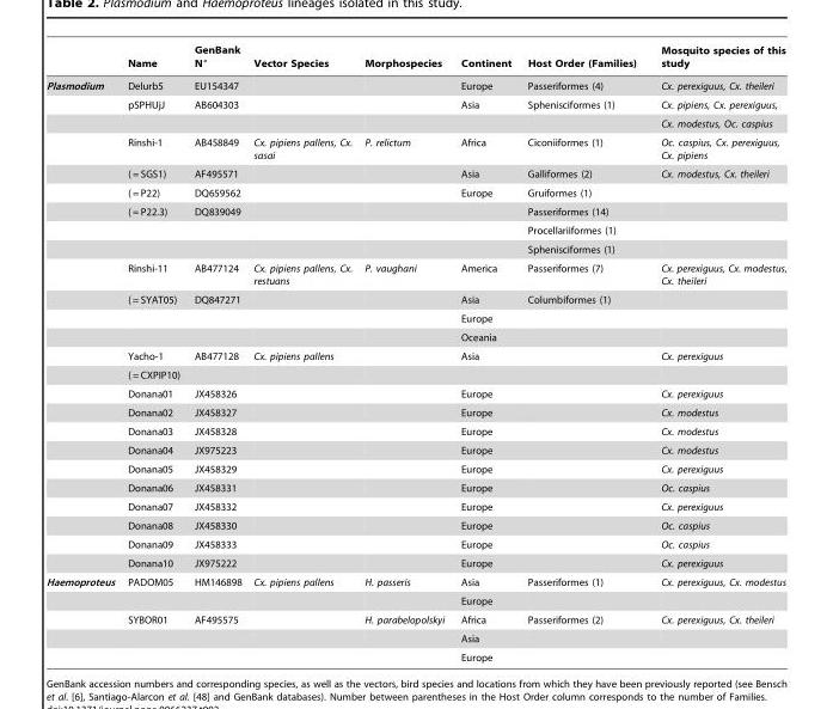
<table><thead><tr><td></td><td>Name</td><td>GenBank N°</td><td>Vector Species</td><td>Morphospecies</td><td>Continent</td><td>Host Order (Families)</td><td>Mosquito species of this study</td></tr></thead><tbody><tr><td rowspan="25">Plasmodium</td><td>Delurb5</td><td>EU154347</td><td></td><td></td><td>Europe</td><td>Passeriformes (4)</td><td>Cx. perexiguus, Cx. theileri</td></tr><tr><td>pSPHUjJ</td><td>AB604303</td><td></td><td></td><td>Asia</td><td>Sphenisciformes (1)</td><td>Cx. pipiens, Cx. perexiguus,</td></tr><tr><td></td><td></td><td></td><td></td><td></td><td></td><td>Cx. modestus, Oc. caspius</td></tr><tr><td>Rinshi-1</td><td>AB458849</td><td>Cx. pipiens pallens, Cx. sasai</td><td>P. relictum</td><td>Africa</td><td>Ciconiiformes (1)</td><td>Oc. caspius, Cx. perexiguus, Cx. pipiens</td></tr><tr><td>( = SGS1)</td><td>AF495571</td><td></td><td></td><td>Asia</td><td>Galliformes (2)</td><td>Cx. modestus, Cx. theileri</td></tr><tr><td>( = P22)</td><td>DQ659562</td><td></td><td></td><td>Europe</td><td>Gruiformes (1)</td><td></td></tr><tr><td>( = P22.3)</td><td>DQ839049</td><td></td><td></td><td></td><td>Passeriformes (14)</td><td></td></tr><tr><td></td><td></td><td></td><td></td><td></td><td>Procellariiformes (1)</td><td></td></tr><tr><td></td><td></td><td></td><td></td><td></td><td>Sphenisciformes (1)</td><td></td></tr><tr><td>Rinshi-11</td><td>AB477124</td><td>Cx. pipiens pallens, Cx. restuans</td><td>P. vaughani</td><td>America</td><td>Passeriformes (7)</td><td>Cx. perexiguus, Cx. modestus, Cx. theileri</td></tr><tr><td>( = SYAT05)</td><td>DQ847271</td><td></td><td></td><td>Asia</td><td>Columbiformes (1)</td><td></td></tr><tr><td></td><td></td><td></td><td></td><td>Europe</td><td></td><td></td></tr><tr><td></td><td></td><td></td><td></td><td>Oceania</td><td></td><td></td></tr><tr><td>Yacho-1</td><td>AB477128</td><td>Cx. pipiens pallens</td><td></td><td>Asia</td><td></td><td>Cx. perexiguus</td></tr><tr><td>( = CXPIP10)</td><td></td><td></td><td></td><td></td><td></td><td></td></tr><tr><td>Donana01</td><td>JX458326</td><td></td><td></td><td>Europe</td><td></td><td>Cx. perexiguus</td></tr><tr><td>Donana02</td><td>JX458327</td><td></td><td></td><td>Europe</td><td></td><td>Cx. modestus</td></tr><tr><td>Donana03</td><td>JX458328</td><td></td><td></td><td>Europe</td><td></td><td>Cx. modestus</td></tr><tr><td>Donana04</td><td>JX975223</td><td></td><td></td><td>Europe</td><td></td><td>Cx. modestus</td></tr><tr><td>Donana05</td><td>JX458329</td><td></td><td></td><td>Europe</td><td></td><td>Cx. perexiguus</td></tr><tr><td>Donana06</td><td>JX458331</td><td></td><td></td><td>Europe</td><td></td><td>Oc. caspius</td></tr><tr><td>Donana07</td><td>JX458332</td><td></td><td></td><td>Europe</td><td></td><td>Cx. perexiguus</td></tr><tr><td>Donana08</td><td>JX458330</td><td></td><td></td><td>Europe</td><td></td><td>Oc. caspius</td></tr><tr><td>Donana09</td><td>JX458333</td><td></td><td></td><td>Europe</td><td></td><td>Oc. caspius</td></tr><tr><td>Donana10</td><td>JX975222</td><td></td><td></td><td>Europe</td><td></td><td>Cx. perexiguus</td></tr><tr><td rowspan="5">Haemoproteus</td><td>PADOM05</td><td>HM146898</td><td>Cx. pipiens pallens</td><td>H. passeris</td><td>Asia</td><td>Passeriformes (1)</td><td>Cx. perexiguus, Cx. modestus</td></tr><tr><td></td><td></td><td></td><td></td><td>Europe</td><td></td><td></td></tr><tr><td>SYBOR01</td><td>AF495575</td><td></td><td>H. parabelopolskyi</td><td>Africa</td><td>Passeriformes (2)</td><td>Cx. perexiguus, Cx. theileri</td></tr><tr><td></td><td></td><td></td><td></td><td>Asia</td><td></td><td></td></tr><tr><td></td><td></td><td></td><td></td><td>Europe</td><td></td><td></td></tr></tbody></table>